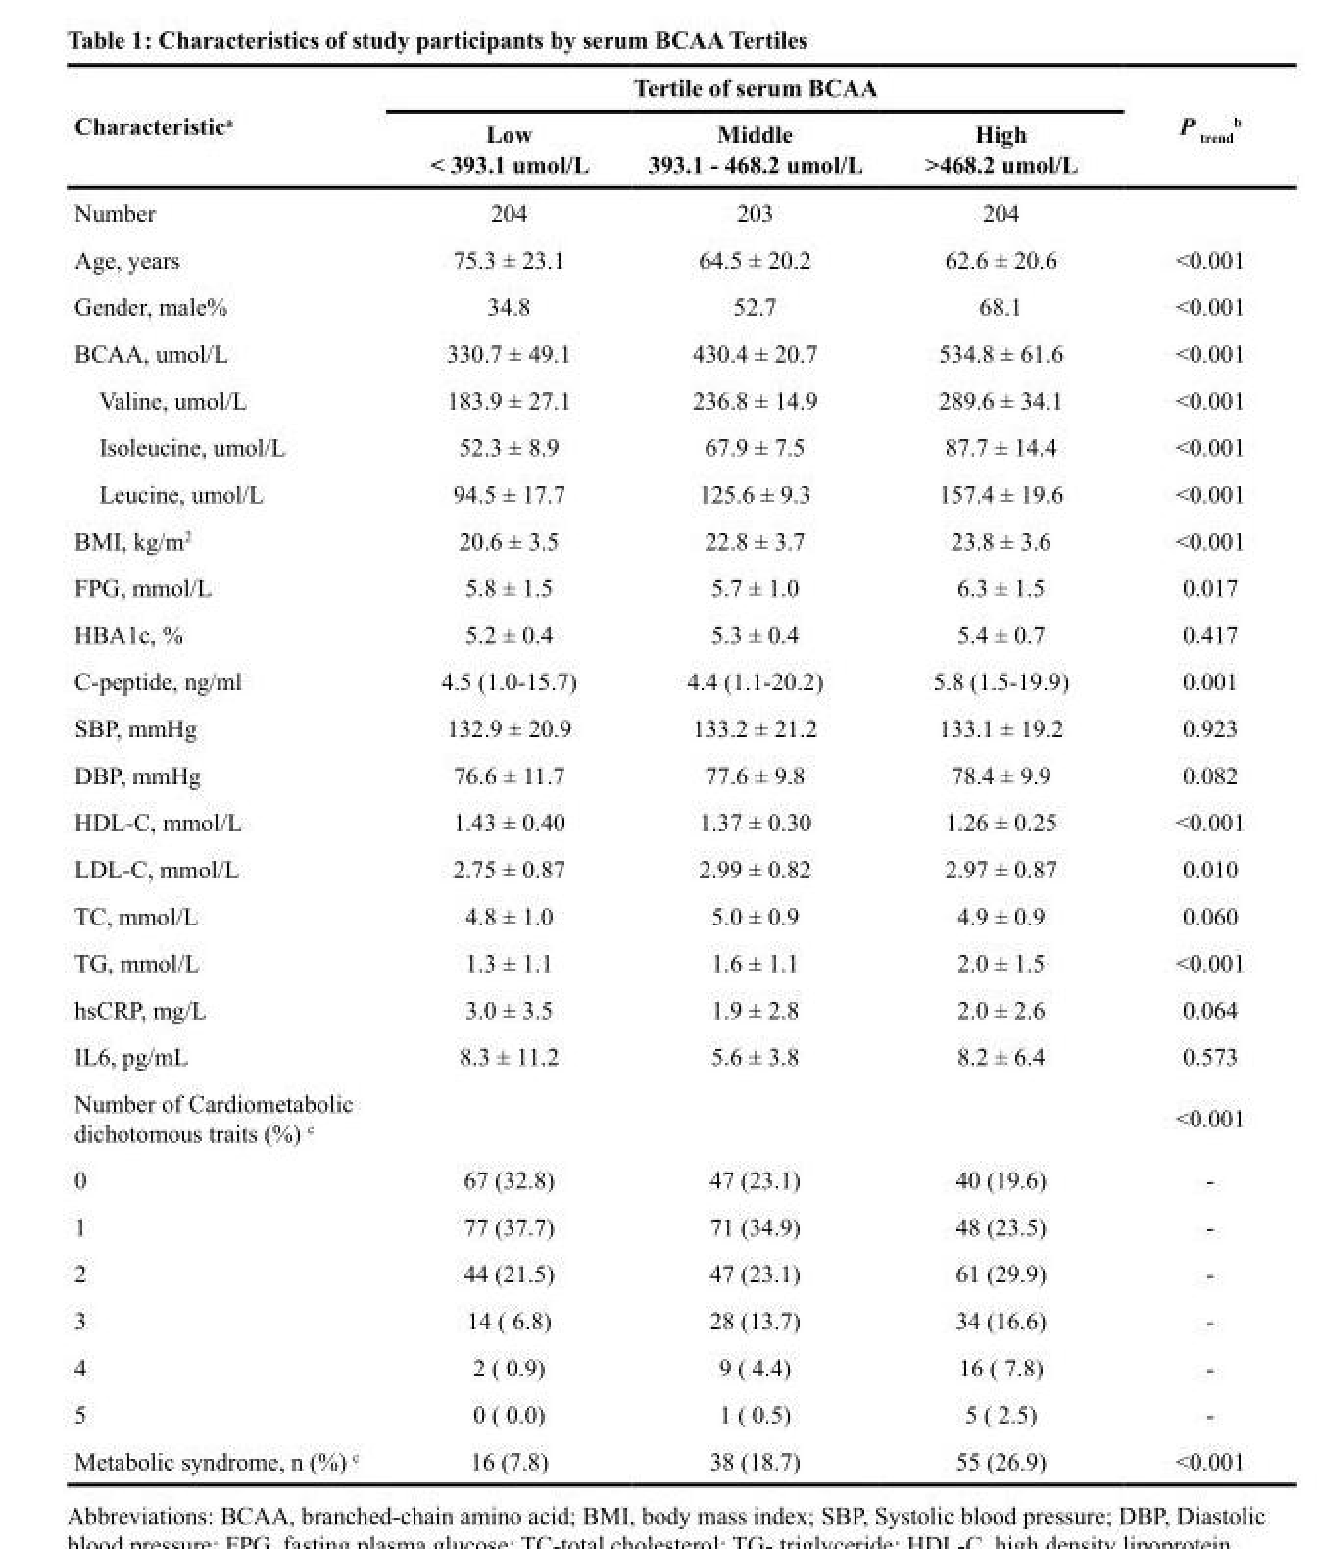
<table><thead><tr><td rowspan="2">Characteristic<sup>a</sup></td><td colspan="3">Tertile of serum BCAA</td><td rowspan="2">P <sub>trend</sub> <sup>b</sup></td></tr><tr><td>Low &lt; 393.1 umol/L</td><td>Middle 393.1 - 468.2 umol/L</td><td>High &gt;468.2 umol/L</td></tr></thead><tbody><tr><td>Number</td><td>204</td><td>203</td><td>204</td><td></td></tr><tr><td>Age, years</td><td>75.3 ± 23.1</td><td>64.5 ± 20.2</td><td>62.6 ± 20.6</td><td>&lt;0.001</td></tr><tr><td>Gender, male%</td><td>34.8</td><td>52.7</td><td>68.1</td><td>&lt;0.001</td></tr><tr><td>BCAA, umol/L</td><td>330.7 ± 49.1</td><td>430.4 ± 20.7</td><td>534.8 ± 61.6</td><td>&lt;0.001</td></tr><tr><td>Valine, umol/L</td><td>183.9 ± 27.1</td><td>236.8 ± 14.9</td><td>289.6 ± 34.1</td><td>&lt;0.001</td></tr><tr><td>Isoleucine, umol/L</td><td>52.3 ± 8.9</td><td>67.9 ± 7.5</td><td>87.7 ± 14.4</td><td>&lt;0.001</td></tr><tr><td>Leucine, umol/L</td><td>94.5 ± 17.7</td><td>125.6 ± 9.3</td><td>157.4 ± 19.6</td><td>&lt;0.001</td></tr><tr><td>BMI, kg/m<sup>2</sup></td><td>20.6 ± 3.5</td><td>22.8 ± 3.7</td><td>23.8 ± 3.6</td><td>&lt;0.001</td></tr><tr><td>FPG, mmol/L</td><td>5.8 ± 1.5</td><td>5.7 ± 1.0</td><td>6.3 ± 1.5</td><td>0.017</td></tr><tr><td>HBA1c, %</td><td>5.2 ± 0.4</td><td>5.3 ± 0.4</td><td>5.4 ± 0.7</td><td>0.417</td></tr><tr><td>C-peptide, ng/ml</td><td>4.5 (1.0-15.7)</td><td>4.4 (1.1-20.2)</td><td>5.8 (1.5-19.9)</td><td>0.001</td></tr><tr><td>SBP, mmHg</td><td>132.9 ± 20.9</td><td>133.2 ± 21.2</td><td>133.1 ± 19.2</td><td>0.923</td></tr><tr><td>DBP, mmHg</td><td>76.6 ± 11.7</td><td>77.6 ± 9.8</td><td>78.4 ± 9.9</td><td>0.082</td></tr><tr><td>HDL-C, mmol/L</td><td>1.43 ± 0.40</td><td>1.37 ± 0.30</td><td>1.26 ± 0.25</td><td>&lt;0.001</td></tr><tr><td>LDL-C, mmol/L</td><td>2.75 ± 0.87</td><td>2.99 ± 0.82</td><td>2.97 ± 0.87</td><td>0.010</td></tr><tr><td>TC, mmol/L</td><td>4.8 ± 1.0</td><td>5.0 ± 0.9</td><td>4.9 ± 0.9</td><td>0.060</td></tr><tr><td>TG, mmol/L</td><td>1.3 ± 1.1</td><td>1.6 ± 1.1</td><td>2.0 ± 1.5</td><td>&lt;0.001</td></tr><tr><td>hsCRP, mg/L</td><td>3.0 ± 3.5</td><td>1.9 ± 2.8</td><td>2.0 ± 2.6</td><td>0.064</td></tr><tr><td>IL6, pg/mL</td><td>8.3 ± 11.2</td><td>5.6 ± 3.8</td><td>8.2 ± 6.4</td><td>0.573</td></tr><tr><td>Number of Cardiometabolic dichotomous traits (%) <sup>c</sup></td><td></td><td></td><td></td><td>&lt;0.001</td></tr><tr><td>0</td><td>67 (32.8)</td><td>47 (23.1)</td><td>40 (19.6)</td><td>-</td></tr><tr><td>1</td><td>77 (37.7)</td><td>71 (34.9)</td><td>48 (23.5)</td><td>-</td></tr><tr><td>2</td><td>44 (21.5)</td><td>47 (23.1)</td><td>61 (29.9)</td><td>-</td></tr><tr><td>3</td><td>14 ( 6.8)</td><td>28 (13.7)</td><td>34 (16.6)</td><td>-</td></tr><tr><td>4</td><td>2 ( 0.9)</td><td>9 ( 4.4)</td><td>16 ( 7.8)</td><td>-</td></tr><tr><td>5</td><td>0 ( 0.0)</td><td>1 ( 0.5)</td><td>5 ( 2.5)</td><td>-</td></tr><tr><td>Metabolic syndrome, n (%) <sup>c</sup></td><td>16 (7.8)</td><td>38 (18.7)</td><td>55 (26.9)</td><td>&lt;0.001</td></tr></tbody></table>